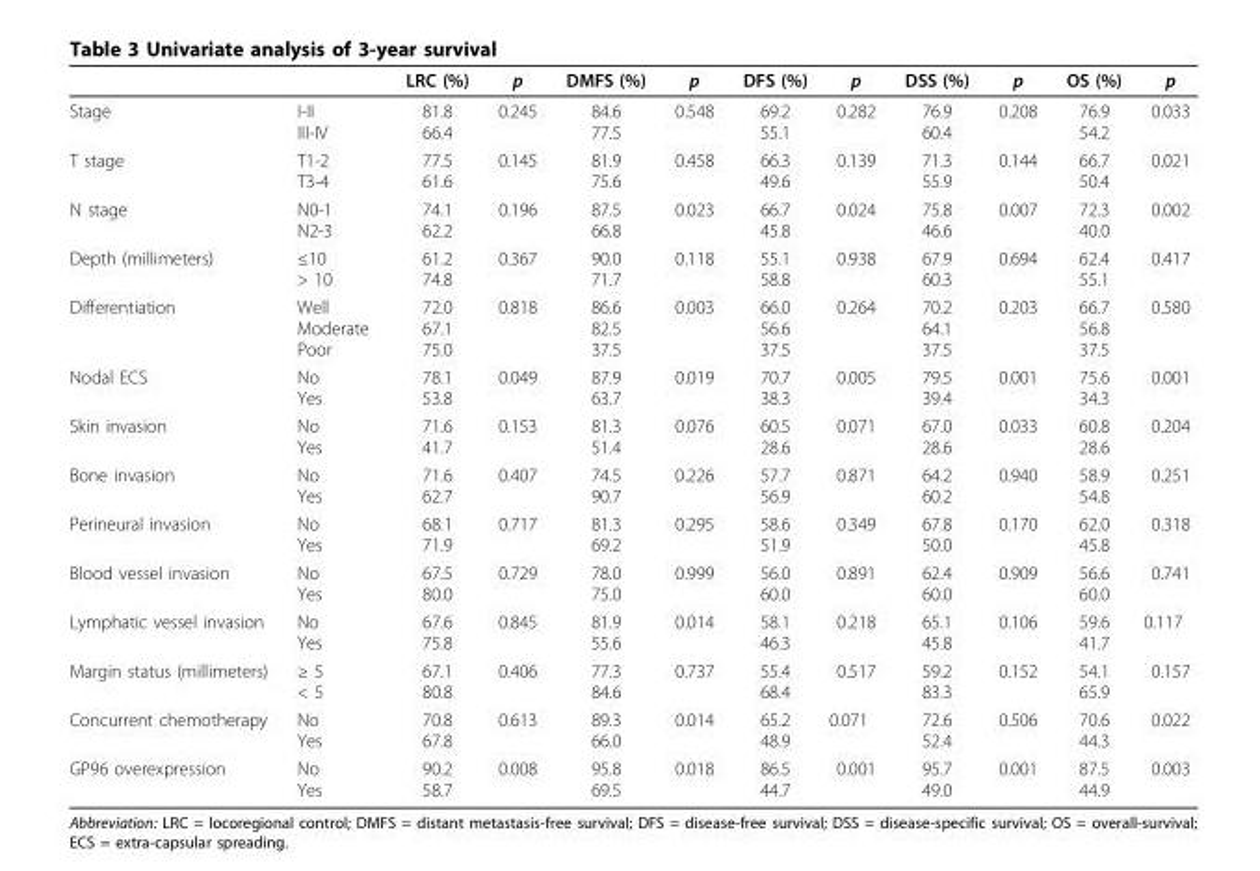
<table><thead><tr><td></td><td></td><td>LRC (%)</td><td>p</td><td>DMFS (%)</td><td>p</td><td>DFS (%)</td><td>p</td><td>DSS (%)</td><td>p</td><td>OS (%)</td><td>p</td></tr></thead><tbody><tr><td>Stage</td><td>I-II III-IV</td><td>81.8 66.4</td><td>0.245</td><td>84.6 77.5</td><td>0.548</td><td>69.2 55.1</td><td>0.282</td><td>76.9 60.4</td><td>0.208</td><td>76.9 54.2</td><td>0.033</td></tr><tr><td>T stage</td><td>T1-2 T3-4</td><td>77.5 61.6</td><td>0.145</td><td>81.9 75.6</td><td>0.458</td><td>66.3 49.6</td><td>0.139</td><td>71.3 55.9</td><td>0.144</td><td>66.7 50.4</td><td>0.021</td></tr><tr><td>N stage</td><td>N0-1 N2-3</td><td>74.1 62.2</td><td>0.196</td><td>87.5 66.8</td><td>0.023</td><td>66.7 45.8</td><td>0.024</td><td>75.8 46.6</td><td>0.007</td><td>72.3 40.0</td><td>0.002</td></tr><tr><td>Depth (millimeters)</td><td>≤10 &gt; 10</td><td>61.2 74.8</td><td>0.367</td><td>90.0 71.7</td><td>0.118</td><td>55.1 58.8</td><td>0.938</td><td>67.9 60.3</td><td>0.694</td><td>62.4 55.1</td><td>0.417</td></tr><tr><td>Differentiation</td><td>Well Moderate Poor</td><td>72.0 67.1 75.0</td><td>0.818</td><td>86.6 82.5 37.5</td><td>0.003</td><td>66.0 56.6 37.5</td><td>0.264</td><td>70.2 64.1 37.5</td><td>0.203</td><td>66.7 56.8 37.5</td><td>0.580</td></tr><tr><td>Nodal ECS</td><td>No Yes</td><td>78.1 53.8</td><td>0.049</td><td>87.9 63.7</td><td>0.019</td><td>70.7 38.3</td><td>0.005</td><td>79.5 39.4</td><td>0.001</td><td>75.6 34.3</td><td>0.001</td></tr><tr><td>Skin invasion</td><td>No Yes</td><td>71.6 41.7</td><td>0.153</td><td>81.3 51.4</td><td>0.076</td><td>60.5 28.6</td><td>0.071</td><td>67.0 28.6</td><td>0.033</td><td>60.8 28.6</td><td>0.204</td></tr><tr><td>Bone invasion</td><td>No Yes</td><td>71.6 62.7</td><td>0.407</td><td>74.5 90.7</td><td>0.226</td><td>57.7 56.9</td><td>0.871</td><td>64.2 60.2</td><td>0.940</td><td>58.9 54.8</td><td>0.251</td></tr><tr><td>Perineural invasion</td><td>No Yes</td><td>68.1 71.9</td><td>0.717</td><td>81.3 69.2</td><td>0.295</td><td>58.6 51.9</td><td>0.349</td><td>67.8 50.0</td><td>0.170</td><td>62.0 45.8</td><td>0.318</td></tr><tr><td>Blood vessel invasion</td><td>No Yes</td><td>67.5 80.0</td><td>0.729</td><td>78.0 75.0</td><td>0.999</td><td>56.0 60.0</td><td>0.891</td><td>62.4 60.0</td><td>0.909</td><td>56.6 60.0</td><td>0.741</td></tr><tr><td>Lymphatic vessel invasion</td><td>No Yes</td><td>67.6 75.8</td><td>0.845</td><td>81.9 55.6</td><td>0.014</td><td>58.1 46.3</td><td>0.218</td><td>65.1 45.8</td><td>0.106</td><td>59.6 41.7</td><td>0.117</td></tr><tr><td>Margin status (millimeters)</td><td>≥ 5 &lt; 5</td><td>67.1 80.8</td><td>0.406</td><td>77.3 84.6</td><td>0.737</td><td>55.4 68.4</td><td>0.517</td><td>59.2 83.3</td><td>0.152</td><td>54.1 65.9</td><td>0.157</td></tr><tr><td>Concurrent chemotherapy</td><td>No Yes</td><td>70.8 67.8</td><td>0.613</td><td>89.3 66.0</td><td>0.014</td><td>65.2 48.9</td><td>0.071</td><td>72.6 52.4</td><td>0.506</td><td>70.6 44.3</td><td>0.022</td></tr><tr><td>GP96 overexpression</td><td>No Yes</td><td>90.2 58.7</td><td>0.008</td><td>95.8 69.5</td><td>0.018</td><td>86.5 44.7</td><td>0.001</td><td>95.7 49.0</td><td>0.001</td><td>87.5 44.9</td><td>0.003</td></tr></tbody></table>